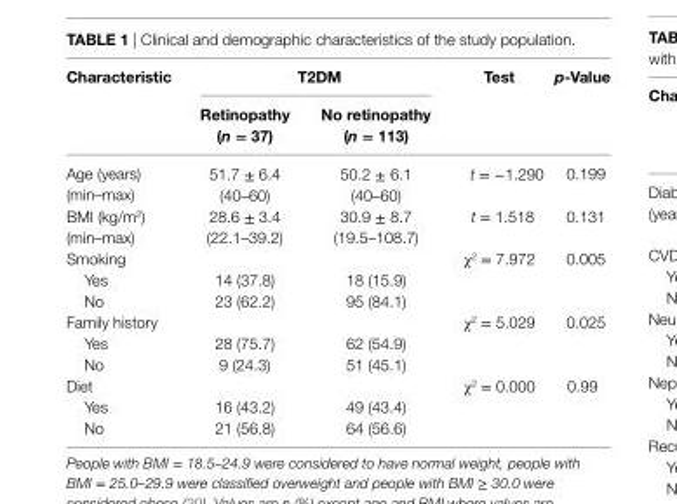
<table><thead><tr><td rowspan="2">characteristic</td><td colspan="2">T2DM</td><td rowspan="2">Test</td><td rowspan="2">p-Value</td></tr><tr><td>retinopathy (n = 37)</td><td>no retinopathy (n = 113)</td></tr></thead><tbody><tr><td>Age (years) (min–max)</td><td>51.7 ± 6.4 (40–60)</td><td>50.2 ± 6.1 (40–60)</td><td>t = −1.290</td><td>0.199</td></tr><tr><td>BMI (kg/m<sup>2</sup>) (min–max)</td><td>28.6 ± 3.4 (22.1–39.2)</td><td>30.9 ± 8.7 (19.5–108.7)</td><td>t = 1.518</td><td>0.131</td></tr><tr><td colspan="3">Smoking</td><td rowspan="3">χ<sup>2</sup> = 7.972</td><td rowspan="3">0.005</td></tr><tr><td>Yes</td><td>14 (37.8)</td><td>18 (15.9)</td></tr><tr><td>No</td><td>23 (62.2)</td><td>95 (84.1)</td></tr><tr><td colspan="3">Family history</td><td rowspan="3">χ<sup>2</sup> = 5.029</td><td rowspan="3">0.025</td></tr><tr><td>Yes</td><td>28 (75.7)</td><td>62 (54.9)</td></tr><tr><td>No</td><td>9 (24.3)</td><td>51 (45.1)</td></tr><tr><td colspan="3">Diet</td><td rowspan="3">χ<sup>2</sup> = 0.000</td><td rowspan="3">0.99</td></tr><tr><td>Yes</td><td>16 (43.2)</td><td>49 (43.4)</td></tr><tr><td>No</td><td>21 (56.8)</td><td>64 (56.6)</td></tr></tbody></table>